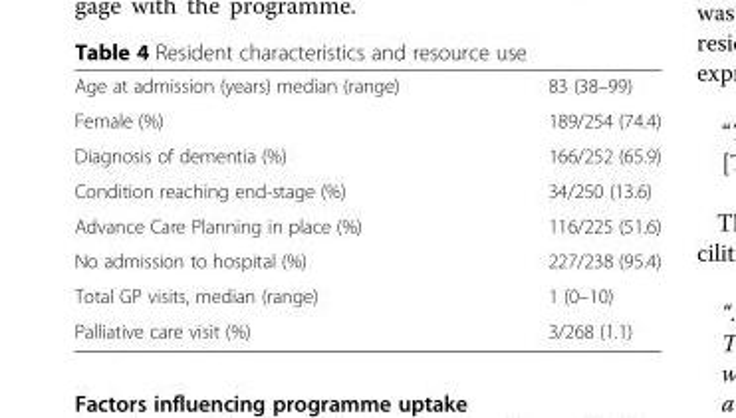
<table><tbody><tr><td>Age at admission (years) median (range)</td><td>83 (38–99)</td></tr><tr><td>Female (%)</td><td>189/254 (74.4)</td></tr><tr><td>Diagnosis of dementia (%)</td><td>166/252 (65.9)</td></tr><tr><td>Condition reaching end-stage (%)</td><td>34/250 (13.6)</td></tr><tr><td>Advance Care Planning in place (%)</td><td>116/225 (51.6)</td></tr><tr><td>No admission to hospital (%)</td><td>227/238 (95.4)</td></tr><tr><td>Total GP visits, median (range)</td><td>1 (0–10)</td></tr><tr><td>Palliative care visit (%)</td><td>3/268 (1.1)</td></tr></tbody></table>